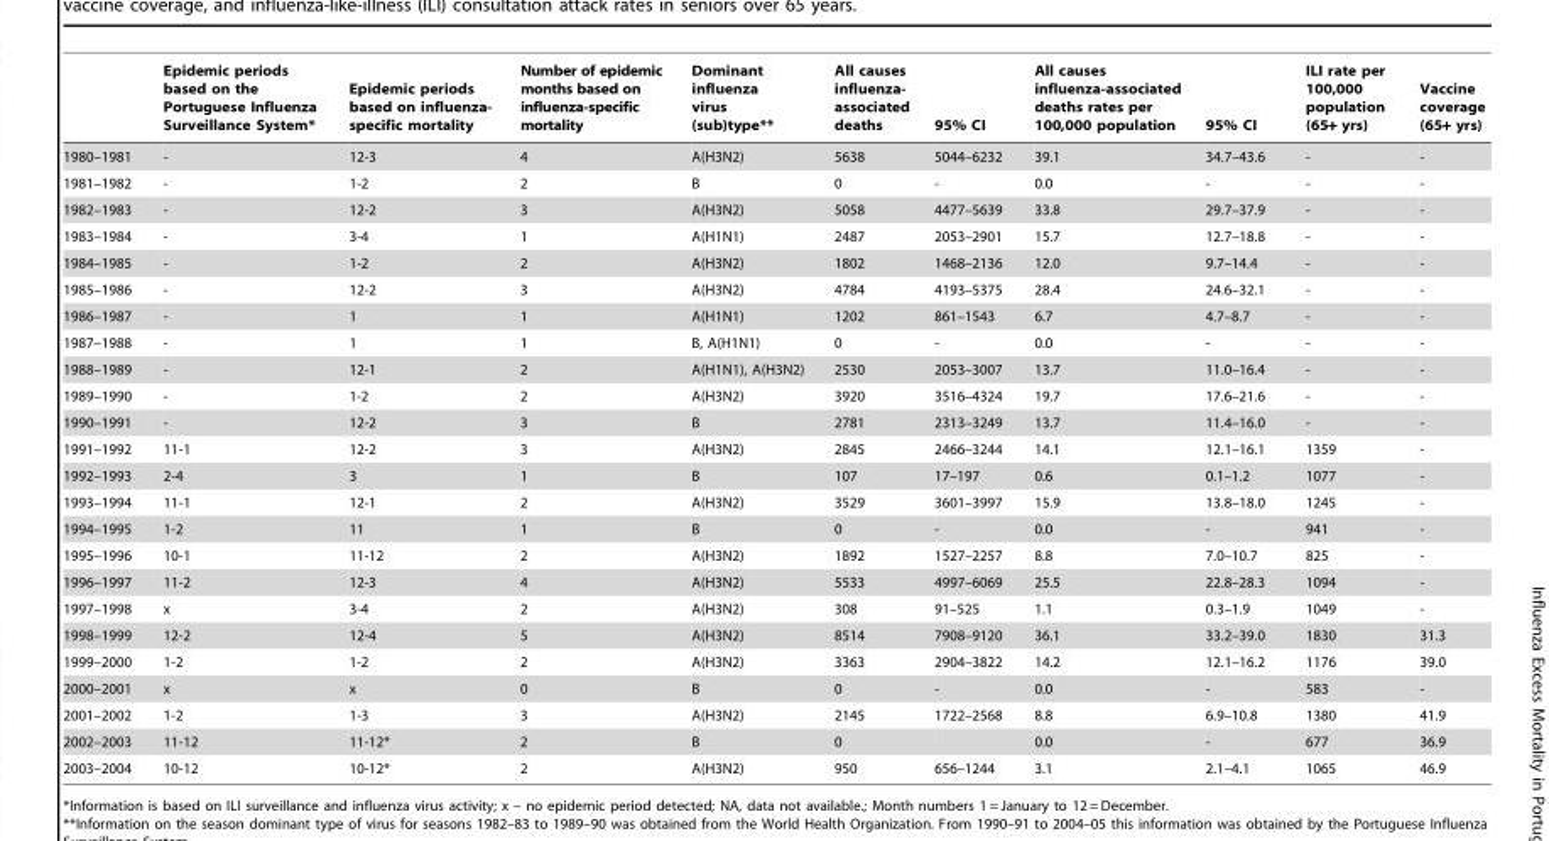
<table><thead><tr><td></td><td>Epidemic periods based on the Portuguese Influenza Surveillance System*</td><td>Epidemic periods based on influenza- specific mortality</td><td>Number of epidemic months based on influenza-specific mortality</td><td>Dominant influenza virus (sub)type**</td><td>All causes influenza- associated deaths</td><td>95% CI</td><td>All causes influenza-associated deaths rates per 100,000 population</td><td>95% CI</td><td>ILI rate per 100,000 population (65+ yrs)</td><td>Vaccine coverage (65+ yrs)</td></tr></thead><tbody><tr><td>1980–1981</td><td>-</td><td>12-3</td><td>4</td><td>A(H3N2)</td><td>5638</td><td>5044–6232</td><td>39.1</td><td>34.7–43.6</td><td>-</td><td>-</td></tr><tr><td>1981–1982</td><td>-</td><td>1-2</td><td>2</td><td>B</td><td>0</td><td>-</td><td>0.0</td><td>-</td><td>-</td><td>-</td></tr><tr><td>1982–1983</td><td>-</td><td>12-2</td><td>3</td><td>A(H3N2)</td><td>5058</td><td>4477–5639</td><td>33.8</td><td>29.7–37.9</td><td>-</td><td>-</td></tr><tr><td>1983–1984</td><td>-</td><td>3-4</td><td>1</td><td>A(H1N1)</td><td>2487</td><td>2053–2901</td><td>15.7</td><td>12.7–18.8</td><td>-</td><td>-</td></tr><tr><td>1984–1985</td><td>-</td><td>1-2</td><td>2</td><td>A(H3N2)</td><td>1802</td><td>1468–2136</td><td>12.0</td><td>9.7–14.4</td><td>-</td><td>-</td></tr><tr><td>1985–1986</td><td>-</td><td>12-2</td><td>3</td><td>A(H3N2)</td><td>4784</td><td>4193–5375</td><td>28.4</td><td>24.6–32.1</td><td>-</td><td>-</td></tr><tr><td>1986–1987</td><td>-</td><td>1</td><td>1</td><td>A(H1N1)</td><td>1202</td><td>861–1543</td><td>6.7</td><td>4.7–8.7</td><td>-</td><td>-</td></tr><tr><td>1987–1988</td><td>-</td><td>1</td><td>1</td><td>B, A(H1N1)</td><td>0</td><td>-</td><td>0.0</td><td>-</td><td>-</td><td>-</td></tr><tr><td>1988–1989</td><td>-</td><td>12-1</td><td>2</td><td>A(H1N1), A(H3N2)</td><td>2530</td><td>2053–3007</td><td>13.7</td><td>11.0–16.4</td><td>-</td><td>-</td></tr><tr><td>1989–1990</td><td>-</td><td>1-2</td><td>2</td><td>A(H3N2)</td><td>3920</td><td>3516–4324</td><td>19.7</td><td>17.6–21.6</td><td>-</td><td>-</td></tr><tr><td>1990–1991</td><td>-</td><td>12-2</td><td>3</td><td>B</td><td>2781</td><td>2313–3249</td><td>13.7</td><td>11.4–16.0</td><td>-</td><td>-</td></tr><tr><td>1991–1992</td><td>11-1</td><td>12-2</td><td>3</td><td>A(H3N2)</td><td>2845</td><td>2466–3244</td><td>14.1</td><td>12.1–16.1</td><td>1359</td><td>-</td></tr><tr><td>1992–1993</td><td>2-4</td><td>3</td><td>1</td><td>B</td><td>107</td><td>17–197</td><td>0.6</td><td>0.1–1.2</td><td>1077</td><td>-</td></tr><tr><td>1993–1994</td><td>11-1</td><td>12-1</td><td>2</td><td>A(H3N2)</td><td>3529</td><td>3601–3997</td><td>15.9</td><td>13.8–18.0</td><td>1245</td><td>-</td></tr><tr><td>1994–1995</td><td>1-2</td><td>11</td><td>1</td><td>B</td><td>0</td><td>-</td><td>0.0</td><td>-</td><td>941</td><td>-</td></tr><tr><td>1995–1996</td><td>10-1</td><td>11-12</td><td>2</td><td>A(H3N2)</td><td>1892</td><td>1527–2257</td><td>8.8</td><td>7.0–10.7</td><td>825</td><td>-</td></tr><tr><td>1996–1997</td><td>11-2</td><td>12-3</td><td>4</td><td>A(H3N2)</td><td>5533</td><td>4997–6069</td><td>25.5</td><td>22.8–28.3</td><td>1094</td><td>-</td></tr><tr><td>1997–1998</td><td>x</td><td>3-4</td><td>2</td><td>A(H3N2)</td><td>308</td><td>91–525</td><td>1.1</td><td>0.3–1.9</td><td>1049</td><td>-</td></tr><tr><td>1998–1999</td><td>12-2</td><td>12-4</td><td>5</td><td>A(H3N2)</td><td>8514</td><td>7908–9120</td><td>36.1</td><td>33.2–39.0</td><td>1830</td><td>31.3</td></tr><tr><td>1999–2000</td><td>1-2</td><td>1-2</td><td>2</td><td>A(H3N2)</td><td>3363</td><td>2904–3822</td><td>14.2</td><td>12.1–16.2</td><td>1176</td><td>39.0</td></tr><tr><td>2000–2001</td><td>x</td><td>x</td><td>0</td><td>B</td><td>0</td><td>-</td><td>0.0</td><td>-</td><td>583</td><td>-</td></tr><tr><td>2001–2002</td><td>1-2</td><td>1-3</td><td>3</td><td>A(H3N2)</td><td>2145</td><td>1722–2568</td><td>8.8</td><td>6.9–10.8</td><td>1380</td><td>41.9</td></tr><tr><td>2002–2003</td><td>11-12</td><td>11-12*</td><td>2</td><td>B</td><td>0</td><td></td><td>0.0</td><td>-</td><td>677</td><td>36.9</td></tr><tr><td>2003–2004</td><td>10-12</td><td>10-12*</td><td>2</td><td>A(H3N2)</td><td>950</td><td>656–1244</td><td>3.1</td><td>2.1–4.1</td><td>1065</td><td>46.9</td></tr></tbody></table>